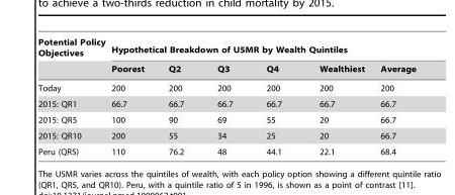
<table><thead><tr><td rowspan="2">Potential Policy Objectives</td><td colspan="6">Hypothetical Breakdown of U5MR by Wealth Quintiles</td></tr><tr><td>Poorest</td><td>Q2</td><td>Q3</td><td>Q4</td><td>Wealthiest</td><td>Average</td></tr></thead><tbody><tr><td>Today</td><td>200</td><td>200</td><td>200</td><td>200</td><td>200</td><td>200</td></tr><tr><td>2015: QR1</td><td>66.7</td><td>66.7</td><td>66.7</td><td>66.7</td><td>66.7</td><td>66.7</td></tr><tr><td>2015: QR5</td><td>100</td><td>90</td><td>69</td><td>55</td><td>20</td><td>66.7</td></tr><tr><td>2015: QR10</td><td>200</td><td>55</td><td>34</td><td>25</td><td>20</td><td>66.7</td></tr><tr><td>Peru (QR5)</td><td>110</td><td>76.2</td><td>48</td><td>44.1</td><td>22.1</td><td>68.4</td></tr></tbody></table>